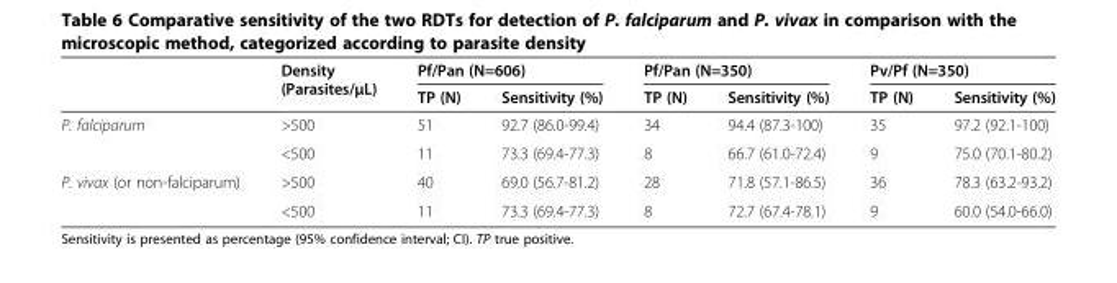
<table><thead><tr><td rowspan="2"></td><td rowspan="2">Density (Parasites/μL)</td><td colspan="2">Pf/Pan (N=606)</td><td colspan="2">Pf/Pan (N=350)</td><td colspan="2">Pv/Pf (N=350)</td></tr><tr><td>TP (N)</td><td>Sensitivity (%)</td><td>TP (N)</td><td>Sensitivity (%)</td><td>TP (N)</td><td>Sensitivity (%)</td></tr></thead><tbody><tr><td rowspan="2">P. falciparum</td><td>&gt;500</td><td>51</td><td>92.7 (86.0-99.4)</td><td>34</td><td>94.4 (87.3-100)</td><td>35</td><td>97.2 (92.1-100)</td></tr><tr><td>&lt;500</td><td>11</td><td>73.3 (69.4-77.3)</td><td>8</td><td>66.7 (61.0-72.4)</td><td>9</td><td>75.0 (70.1-80.2)</td></tr><tr><td rowspan="2">P. vivax (or non-falciparum)</td><td>&gt;500</td><td>40</td><td>69.0 (56.7-81.2)</td><td>28</td><td>71.8 (57.1-86.5)</td><td>36</td><td>78.3 (63.2-93.2)</td></tr><tr><td>&lt;500</td><td>11</td><td>73.3 (69.4-77.3)</td><td>8</td><td>72.7 (67.4-78.1)</td><td>9</td><td>60.0 (54.0-66.0)</td></tr></tbody></table>